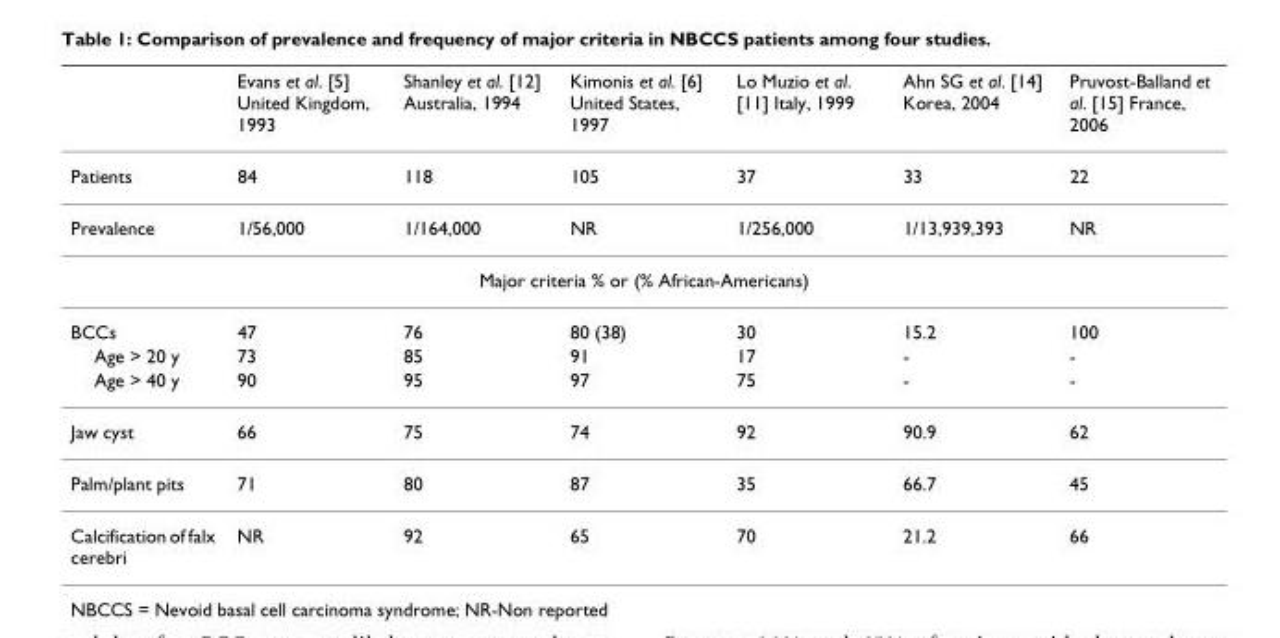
<table><thead><tr><td></td><td>Evans et al. [5] United Kingdom, 1993</td><td>Shanley et al. [12] Australia, 1994</td><td>Kimonis et al. [6] United States, 1997</td><td>Lo Muzio et al. [11] Italy, 1999</td><td>Ahn SG et al. [14] Korea, 2004</td><td>Pruvost-Balland et al. [15] France, 2006</td></tr></thead><tbody><tr><td>Patients</td><td>84</td><td>118</td><td>105</td><td>37</td><td>33</td><td>22</td></tr><tr><td>Prevalence</td><td>1/56,000</td><td>1/164,000</td><td>NR</td><td>1/256,000</td><td>1/13,939,393</td><td>NR</td></tr><tr><td colspan="7">Major criteria % or (% African-Americans)</td></tr><tr><td>BCCs</td><td>47</td><td>76</td><td>80 (38)</td><td>30</td><td>15.2</td><td>100</td></tr><tr><td>Age &gt; 20 y</td><td>73</td><td>85</td><td>91</td><td>17</td><td>-</td><td>-</td></tr><tr><td>Age &gt; 40 y</td><td>90</td><td>95</td><td>97</td><td>75</td><td>-</td><td>-</td></tr><tr><td>Jaw cyst</td><td>66</td><td>75</td><td>74</td><td>92</td><td>90.9</td><td>62</td></tr><tr><td>Palm/plant pits</td><td>71</td><td>80</td><td>87</td><td>35</td><td>66.7</td><td>45</td></tr><tr><td>Calcification of falx cerebri</td><td>NR</td><td>92</td><td>65</td><td>70</td><td>21.2</td><td>66</td></tr></tbody></table>